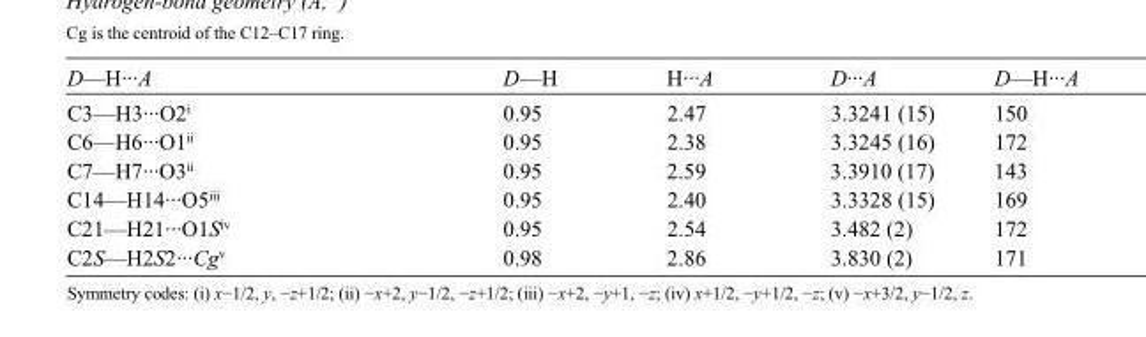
<table><tbody><tr><td>D—H···A</td><td>D—H</td><td>H···A</td><td>D···A</td><td>D—H···A</td></tr><tr><td>C3—H3···O2<sup>i</sup></td><td>0.95</td><td>2.47</td><td>3.3241 (15)</td><td>150</td></tr><tr><td>C6—H6···O1<sup>ii</sup></td><td>0.95</td><td>2.38</td><td>3.3245 (16)</td><td>172</td></tr><tr><td>C7—H7···O3<sup>ii</sup></td><td>0.95</td><td>2.59</td><td>3.3910 (17)</td><td>143</td></tr><tr><td>C14—H14···O5<sup>iii</sup></td><td>0.95</td><td>2.40</td><td>3.3328 (15)</td><td>169</td></tr><tr><td>C21—H21···O1S<sup>iv</sup></td><td>0.95</td><td>2.54</td><td>3.482 (2)</td><td>172</td></tr><tr><td>C2S—H2S2···Cg<sup>v</sup></td><td>0.98</td><td>2.86</td><td>3.830 (2)</td><td>171</td></tr></tbody></table>